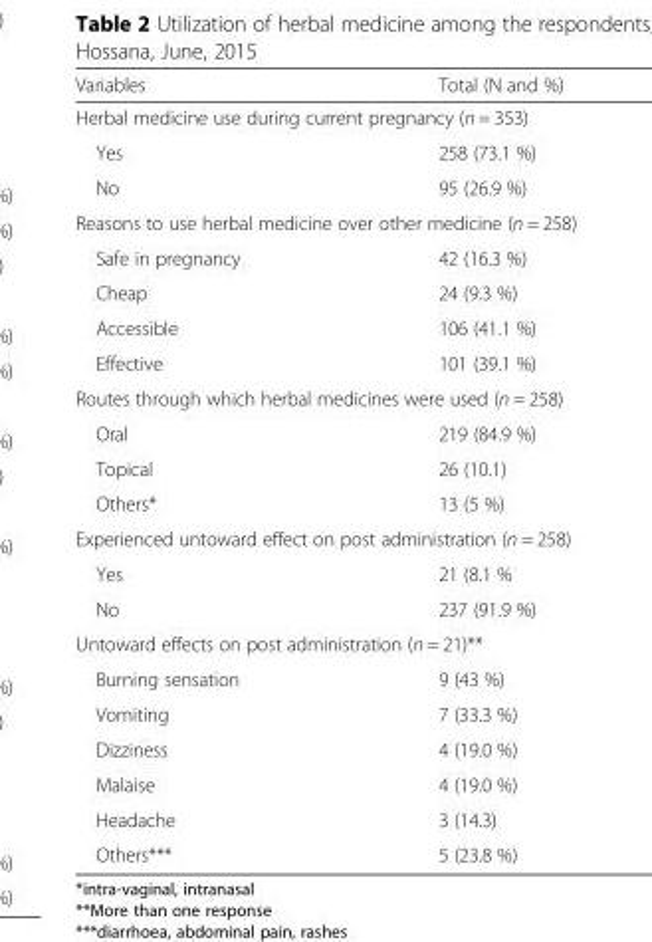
<table><thead><tr><td>Variables</td><td>Total (N and %)</td></tr></thead><tbody><tr><td colspan="2">Herbal medicine use during current pregnancy (n = 353)</td></tr><tr><td>Yes</td><td>258 (73.1 %)</td></tr><tr><td>No</td><td>95 (26.9 %)</td></tr><tr><td colspan="2">Reasons to use herbal medicine over other medicine (n = 258)</td></tr><tr><td>Safe in pregnancy</td><td>42 (16.3 %)</td></tr><tr><td>Cheap</td><td>24 (9.3 %)</td></tr><tr><td>Accessible</td><td>106 (41.1 %)</td></tr><tr><td>Effective</td><td>101 (39.1 %)</td></tr><tr><td colspan="2">Routes through which herbal medicines were used (n = 258)</td></tr><tr><td>Oral</td><td>219 (84.9 %)</td></tr><tr><td>Topical</td><td>26 (10.1)</td></tr><tr><td>Others*</td><td>13 (5 %)</td></tr><tr><td colspan="2">Experienced untoward effect on post administration (n = 258)</td></tr><tr><td>Yes</td><td>21 (8.1 %</td></tr><tr><td>No</td><td>237 (91.9 %)</td></tr><tr><td colspan="2">Untoward effects on post administration (n = 21)**</td></tr><tr><td>Burning sensation</td><td>9 (43 %)</td></tr><tr><td>Vomiting</td><td>7 (33.3 %)</td></tr><tr><td>Dizziness</td><td>4 (19.0 %)</td></tr><tr><td>Malaise</td><td>4 (19.0 %)</td></tr><tr><td>Headache</td><td>3 (14.3)</td></tr><tr><td>Others***</td><td>5 (23.8 %)</td></tr></tbody></table>